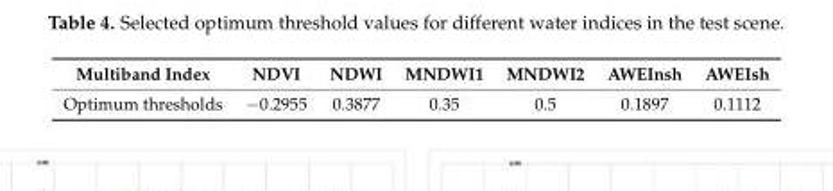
<table><thead><tr><td>Multiband Index</td><td>NDVI</td><td>NDWI</td><td>MNDWI1</td><td>MNDWI2</td><td>AWEInsh</td><td>AWEIsh</td></tr></thead><tbody><tr><td>Optimum thresholds</td><td>−0.2955</td><td>0.3877</td><td>0.35</td><td>0.5</td><td>0.1897</td><td>0.1112</td></tr></tbody></table>